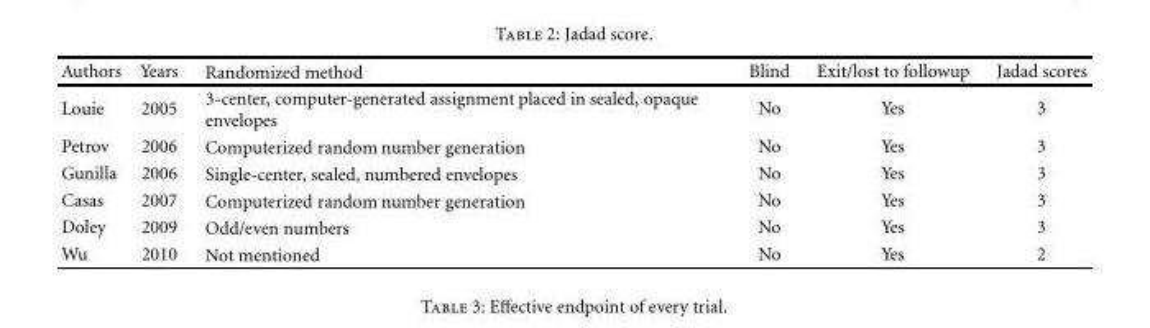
<table><thead><tr><td>Authors</td><td>Years</td><td>Randomized method</td><td>Blind</td><td>Exit/lost to followup</td><td>Jadad scores</td></tr></thead><tbody><tr><td>Louie</td><td>2005</td><td>3-center, computer-generated assignment placed in sealed, opaque envelopes</td><td>No</td><td>Yes</td><td>3</td></tr><tr><td>Petrov</td><td>2006</td><td>Computerized random number generation</td><td>No</td><td>Yes</td><td>3</td></tr><tr><td>Gunilla</td><td>2006</td><td>Single-center, sealed, numbered envelopes</td><td>No</td><td>Yes</td><td>3</td></tr><tr><td>Casas</td><td>2007</td><td>Computerized random number generation</td><td>No</td><td>Yes</td><td>3</td></tr><tr><td>Doley</td><td>2009</td><td>Odd/even numbers</td><td>No</td><td>Yes</td><td>3</td></tr><tr><td>Wu</td><td>2010</td><td>Not mentioned</td><td>No</td><td>Yes</td><td>2</td></tr></tbody></table>